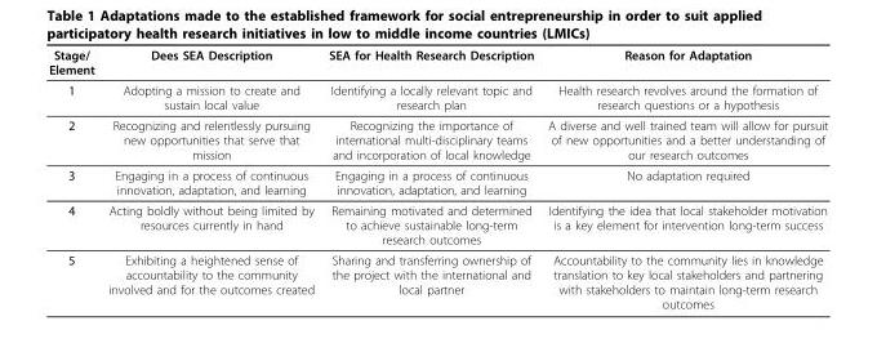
<table><thead><tr><td>Stage/ Element</td><td>Dees SEA Description</td><td>SEA for Health Research Description</td><td>Reason for Adaptation</td></tr></thead><tbody><tr><td>1</td><td>Adopting a mission to create and sustain local value</td><td>Identifying a locally relevant topic and research plan</td><td>Health research revolves around the formation of research questions or a hypothesis</td></tr><tr><td>2</td><td>Recognizing and relentlessly pursuing new opportunities that serve that mission</td><td>Recognizing the importance of international multi-disciplinary teams and incorporation of local knowledge</td><td>A diverse and well trained team will allow for pursuit of new opportunities and a better understanding of our research outcomes</td></tr><tr><td>3</td><td>Engaging in a process of continuous innovation, adaptation, and learning</td><td>Engaging in a process of continuous innovation, adaptation, and learning</td><td>No adaptation required</td></tr><tr><td>4</td><td>Acting boldly without being limited by resources currently in hand</td><td>Remaining motivated and determined to achieve sustainable long-term research outcomes</td><td>Identifying the idea that local stakeholder motivation is a key element for intervention long-term success</td></tr><tr><td>5</td><td>Exhibiting a heightened sense of accountability to the community involved and for the outcomes created</td><td>Sharing and transferring ownership of the project with the international and local partner</td><td>Accountability to the community lies in knowledge translation to key local stakeholders and partnering with stakeholders to maintain long-term research outcomes</td></tr></tbody></table>